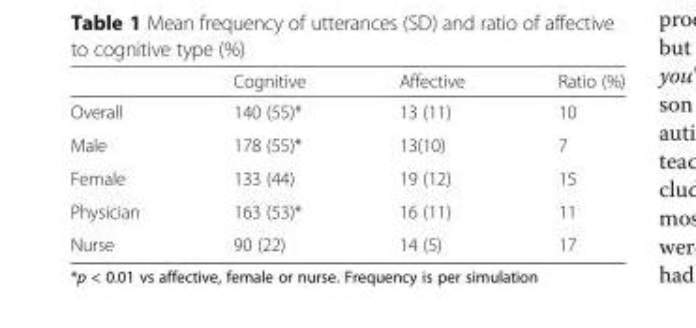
<table><thead><tr><td></td><td>Cognitive</td><td>Affective</td><td>Ratio (%)</td></tr></thead><tbody><tr><td>Overall</td><td>140 (55)*</td><td>13 (11)</td><td>10</td></tr><tr><td>Male</td><td>178 (55)*</td><td>13(10)</td><td>7</td></tr><tr><td>Female</td><td>133 (44)</td><td>19 (12)</td><td>15</td></tr><tr><td>Physician</td><td>163 (53)*</td><td>16 (11)</td><td>11</td></tr><tr><td>Nurse</td><td>90 (22)</td><td>14 (5)</td><td>17</td></tr></tbody></table>